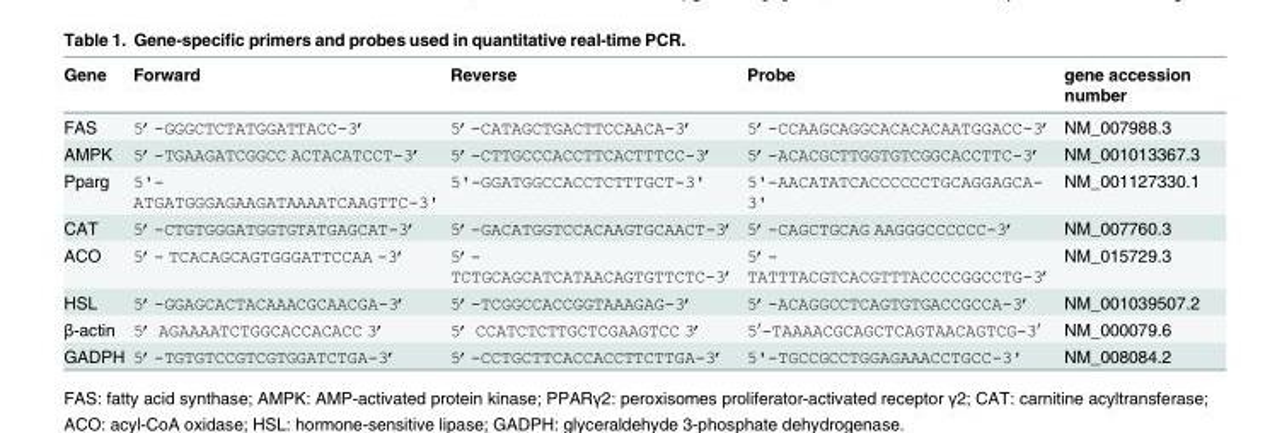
<table><thead><tr><td>Gene</td><td>Forward</td><td>Reverse</td><td>Probe</td><td>gene accession number</td></tr></thead><tbody><tr><td>FAS</td><td>5’-GGGCTCTATGGATTACC-3’</td><td>5’-CATAGCTGACTTCCAACA-3’</td><td>5’-CCAAGCAGGCACACACAATGGACC-3’</td><td>NM_007988.3</td></tr><tr><td>AMPK</td><td>5’-TGAAGATCGGCC ACTACATCCT-3’</td><td>5’-CTTGCCCACCTTCACTTTCC-3’</td><td>5’-ACACGCTTGGTGTCGGCACCTTC-3’</td><td>NM_001013367.3</td></tr><tr><td>Pparg</td><td>5&#x27;- ATGATGGGAGAAGATAAAATCAAGTTC-3&#x27;</td><td>5&#x27;-GGATGGCCACCTCTTTGCT-3&#x27;</td><td>5&#x27;-AACATATCACCCCCCTGCAGGAGCA- 3&#x27;</td><td>NM_001127330.1</td></tr><tr><td>CAT</td><td>5’-CTGTGGGATGGTGTATGAGCAT-3’</td><td>5’-GACATGGTCCACAAGTGCAACT-3’</td><td>5’-CAGCTGCAG AAGGGCCCCCC-3’</td><td>NM_007760.3</td></tr><tr><td>ACO</td><td>5’- TCACAGCAGTGGGATTCCAA -3’</td><td>5’- TCTGCAGCATCATAACAGTGTTCTC-3’</td><td>5’- TATTTACGTCACGTTTACCCCGGCCTG-3’</td><td>NM_015729.3</td></tr><tr><td>HSL</td><td>5’-GGAGCACTACAAACGCAACGA-3’</td><td>5’-TCGGCCACCGGTAAAGAG-3’</td><td>5’-ACAGGCCTCAGTGTGACCGCCA-3’</td><td>NM_001039507.2</td></tr><tr><td>β-actin</td><td>5’ AGAAAATCTGGCACCACACC 3’</td><td>5’ CCATCTCTTGCTCGAAGTCC 3’</td><td>5′-TAAAACGCAGCTCAGTAACAGTCG-3′</td><td>NM_000079.6</td></tr><tr><td>GADPH</td><td>5’-TGTGTCCGTCGTGGATCTGA-3’</td><td>5’-CCTGCTTCACCACCTTCTTGA-3’</td><td>5&#x27;-TGCCGCCTGGAGAAACCTGCC-3&#x27;</td><td>NM_008084.2</td></tr></tbody></table>